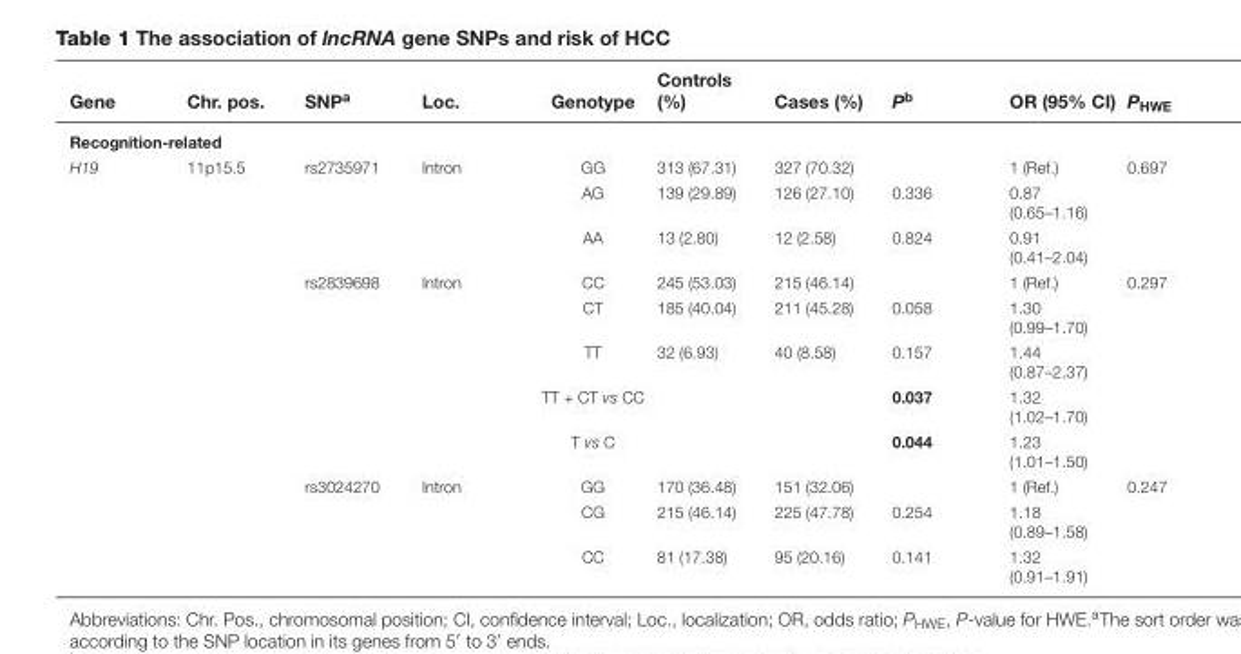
<table><thead><tr><td>Gene</td><td>Chr. pos.</td><td>SNP<sup>a</sup></td><td>Loc.</td><td>Genotype</td><td>Controls (%)</td><td>Cases (%)</td><td>P<sup>b</sup></td><td>OR (95% CI)</td><td>P<sub>HWE</sub></td></tr></thead><tbody><tr><td colspan="10">Recognition-related</td></tr><tr><td rowspan="11">H19</td><td>11p15.5</td><td>rs2735971</td><td>Intron</td><td>GG</td><td>313 (67.31)</td><td>327 (70.32)</td><td></td><td>1 (Ref.)</td><td>0.697</td></tr><tr><td></td><td></td><td></td><td>AG</td><td>139 (29.89)</td><td>126 (27.10)</td><td>0.336</td><td>0.87 (0.65–1.16)</td><td></td></tr><tr><td></td><td></td><td></td><td>AA</td><td>13 (2.80)</td><td>12 (2.58)</td><td>0.824</td><td>0.91 (0.41–2.04)</td><td></td></tr><tr><td></td><td>rs2839698</td><td>Intron</td><td>CC</td><td>245 (53.03)</td><td>215 (46.14)</td><td></td><td>1 (Ref.)</td><td>0.297</td></tr><tr><td></td><td></td><td></td><td>CT</td><td>185 (40.04)</td><td>211 (45.28)</td><td>0.058</td><td>1.30 (0.99–1.70)</td><td></td></tr><tr><td></td><td></td><td></td><td>TT</td><td>32 (6.93)</td><td>40 (8.58)</td><td>0.157</td><td>1.44 (0.87–2.37)</td><td></td></tr><tr><td></td><td></td><td></td><td>TT + CT vs CC</td><td></td><td></td><td>0.037</td><td>1.32 (1.02–1.70)</td><td></td></tr><tr><td></td><td></td><td></td><td>T vs C</td><td></td><td></td><td>0.044</td><td>1.23 (1.01–1.50)</td><td></td></tr><tr><td></td><td>rs3024270</td><td>Intron</td><td>GG</td><td>170 (36.48)</td><td>151 (32.06)</td><td></td><td>1 (Ref.)</td><td>0.247</td></tr><tr><td></td><td></td><td></td><td>CG</td><td>215 (46.14)</td><td>225 (47.78)</td><td>0.254</td><td>1.18 (0.89–1.58)</td><td></td></tr><tr><td></td><td></td><td></td><td>CC</td><td>81 (17.38)</td><td>95 (20.16)</td><td>0.141</td><td>1.32 (0.91–1.91)</td><td></td></tr></tbody></table>